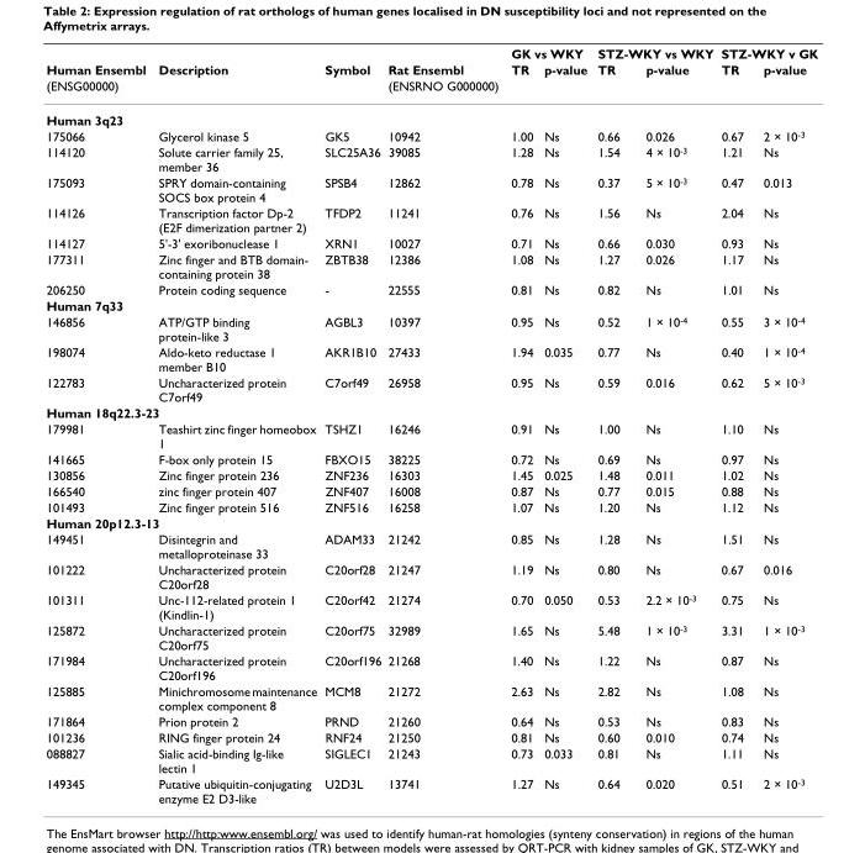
<table><thead><tr><td rowspan="3">Human Ensembl (ENSG00000)</td><td rowspan="3">Description</td><td rowspan="3">Symbol</td><td rowspan="3">Rat Ensembl (ENSRNO G000000)</td><td colspan="2">GK vs WKY</td><td colspan="2">STZ-WKY vs WKY</td><td colspan="2">STZ-WKY v GK</td></tr><tr><td rowspan="2">TR</td><td rowspan="2">p-value</td><td rowspan="2">TR</td><td rowspan="2">p-value</td><td rowspan="2">TR</td><td rowspan="2">p-value</td></tr><tr></tr></thead><tbody><tr><td colspan="10">Human 3q23</td></tr><tr><td>175066</td><td>Glycerol kinase 5</td><td>GK5</td><td>10942</td><td>1.00</td><td>Ns</td><td>0.66</td><td>0.026</td><td>0.67</td><td>2 × 10<sup>-3</sup></td></tr><tr><td>114120</td><td>Solute carrier family 25, member 36</td><td>SLC25A36</td><td>39085</td><td>1.28</td><td>Ns</td><td>1.54</td><td>4 × 10<sup>-3</sup></td><td>1.21</td><td>Ns</td></tr><tr><td>175093</td><td>SPRY domain-containing SOCS box protein 4</td><td>SPSB4</td><td>12862</td><td>0.78</td><td>Ns</td><td>0.37</td><td>5 × 10<sup>-3</sup></td><td>0.47</td><td>0.013</td></tr><tr><td>114126</td><td>Transcription factor Dp-2 (E2F dimerization partner 2)</td><td>TFDP2</td><td>11241</td><td>0.76</td><td>Ns</td><td>1.56</td><td>Ns</td><td>2.04</td><td>Ns</td></tr><tr><td>114127</td><td>5&#x27;-3&#x27; exoribonuclease 1</td><td>XRN1</td><td>10027</td><td>0.71</td><td>Ns</td><td>0.66</td><td>0.030</td><td>0.93</td><td>Ns</td></tr><tr><td>177311</td><td>Zinc finger and BTB domain- containing protein 38</td><td>ZBTB38</td><td>12386</td><td>1.08</td><td>Ns</td><td>1.27</td><td>0.026</td><td>1.17</td><td>Ns</td></tr><tr><td>206250</td><td>Protein coding sequence</td><td>-</td><td>22555</td><td>0.81</td><td>Ns</td><td>0.82</td><td>Ns</td><td>1.01</td><td>Ns</td></tr><tr><td colspan="10">Human 7q33</td></tr><tr><td>146856</td><td>ATP/GTP binding protein-like 3</td><td>AGBL3</td><td>10397</td><td>0.95</td><td>Ns</td><td>0.52</td><td>1 × 10<sup>-4</sup></td><td>0.55</td><td>3 × 10<sup>-4</sup></td></tr><tr><td>198074</td><td>Aldo-keto reductase 1 member B10</td><td>AKR1B10</td><td>27433</td><td>1.94</td><td>0.035</td><td>0.77</td><td>Ns</td><td>0.40</td><td>1 × 10<sup>-4</sup></td></tr><tr><td>122783</td><td>Uncharacterized protein C7orf49</td><td>C7orf49</td><td>26958</td><td>0.95</td><td>Ns</td><td>0.59</td><td>0.016</td><td>0.62</td><td>5 × 10<sup>-3</sup></td></tr><tr><td colspan="10">Human 18q22.3-23</td></tr><tr><td>179981</td><td>Teashirt zinc finger homeobox 1</td><td>TSHZ1</td><td>16246</td><td>0.91</td><td>Ns</td><td>1.00</td><td>Ns</td><td>1.10</td><td>Ns</td></tr><tr><td>141665</td><td>F-box only protein 15</td><td>FBXO15</td><td>38225</td><td>0.72</td><td>Ns</td><td>0.69</td><td>Ns</td><td>0.97</td><td>Ns</td></tr><tr><td>130856</td><td>Zinc finger protein 236</td><td>ZNF236</td><td>16303</td><td>1.45</td><td>0.025</td><td>1.48</td><td>0.011</td><td>1.02</td><td>Ns</td></tr><tr><td>166540</td><td>zinc finger protein 407</td><td>ZNF407</td><td>16008</td><td>0.87</td><td>Ns</td><td>0.77</td><td>0.015</td><td>0.88</td><td>Ns</td></tr><tr><td>101493</td><td>Zinc finger protein 516</td><td>ZNF516</td><td>16258</td><td>1.07</td><td>Ns</td><td>1.20</td><td>Ns</td><td>1.12</td><td>Ns</td></tr><tr><td colspan="10">Human 20p12.3-13</td></tr><tr><td>149451</td><td>Disintegrin and metalloproteinase 33</td><td>ADAM33</td><td>21242</td><td>0.85</td><td>Ns</td><td>1.28</td><td>Ns</td><td>1.51</td><td>Ns</td></tr><tr><td>101222</td><td>Uncharacterized protein C20orf28</td><td>C20orf28</td><td>21247</td><td>1.19</td><td>Ns</td><td>0.80</td><td>Ns</td><td>0.67</td><td>0.016</td></tr><tr><td>101311</td><td>Unc-112-related protein 1 (Kindlin-1)</td><td>C20orf42</td><td>21274</td><td>0.70</td><td>0.050</td><td>0.53</td><td>2.2 × 10<sup>-3</sup></td><td>0.75</td><td>Ns</td></tr><tr><td>125872</td><td>Uncharacterized protein C20orf75</td><td>C20orf75</td><td>32989</td><td>1.65</td><td>Ns</td><td>5.48</td><td>1 × 10<sup>-3</sup></td><td>3.31</td><td>1 × 10<sup>-3</sup></td></tr><tr><td>171984</td><td>Uncharacterized protein C20orf196</td><td>C20orf196</td><td>21268</td><td>1.40</td><td>Ns</td><td>1.22</td><td>Ns</td><td>0.87</td><td>Ns</td></tr><tr><td>125885</td><td>Minichromosome maintenance complex component 8</td><td>MCM8</td><td>21272</td><td>2.63</td><td>Ns</td><td>2.82</td><td>Ns</td><td>1.08</td><td>Ns</td></tr><tr><td>171864</td><td>Prion protein 2</td><td>PRND</td><td>21260</td><td>0.64</td><td>Ns</td><td>0.53</td><td>Ns</td><td>0.83</td><td>Ns</td></tr><tr><td>101236</td><td>RING finger protein 24</td><td>RNF24</td><td>21250</td><td>0.81</td><td>Ns</td><td>0.60</td><td>0.010</td><td>0.74</td><td>Ns</td></tr><tr><td>088827</td><td>Sialic acid-binding Ig-like lectin 1</td><td>SIGLEC1</td><td>21243</td><td>0.73</td><td>0.033</td><td>0.81</td><td>Ns</td><td>1.11</td><td>Ns</td></tr><tr><td>149345</td><td>Putative ubiquitin-conjugating enzyme E2 D3-like</td><td>U2D3L</td><td>13741</td><td>1.27</td><td>Ns</td><td>0.64</td><td>0.020</td><td>0.51</td><td>2 × 10<sup>-3</sup></td></tr></tbody></table>